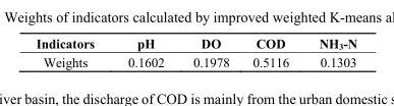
<table><thead><tr><td>Indicators</td><td>pH</td><td>DO</td><td>COD</td><td>NH<sub>3</sub>-N</td></tr></thead><tbody><tr><td>Weights</td><td>0.1602</td><td>0.1978</td><td>0.5116</td><td>0.1303</td></tr></tbody></table>